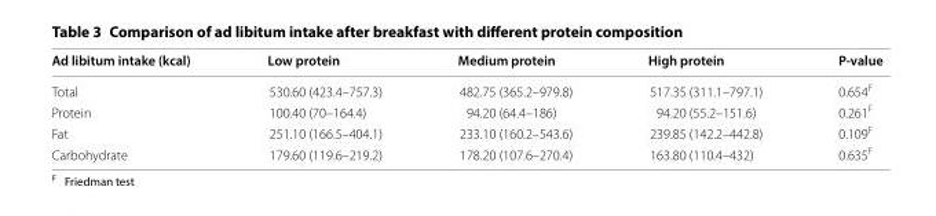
<table><thead><tr><td>Ad libitum intake (kcal)</td><td>Low protein</td><td>Medium protein</td><td>High protein</td><td>P-value</td></tr></thead><tbody><tr><td>Total</td><td>530.60 (423.4–757.3)</td><td>482.75 (365.2–979.8)</td><td>517.35 (311.1–797.1)</td><td>0.654<sup>F</sup></td></tr><tr><td>Protein</td><td>100.40 (70–164.4)</td><td>94.20 (64.4–186)</td><td>94.20 (55.2–151.6)</td><td>0.261<sup>F</sup></td></tr><tr><td>Fat</td><td>251.10 (166.5–404.1)</td><td>233.10 (160.2–543.6)</td><td>239.85 (142.2–442.8)</td><td>0.109<sup>F</sup></td></tr><tr><td>Carbohydrate</td><td>179.60 (119.6–219.2)</td><td>178.20 (107.6–270.4)</td><td>163.80 (110.4–432)</td><td>0.635<sup>F</sup></td></tr></tbody></table>